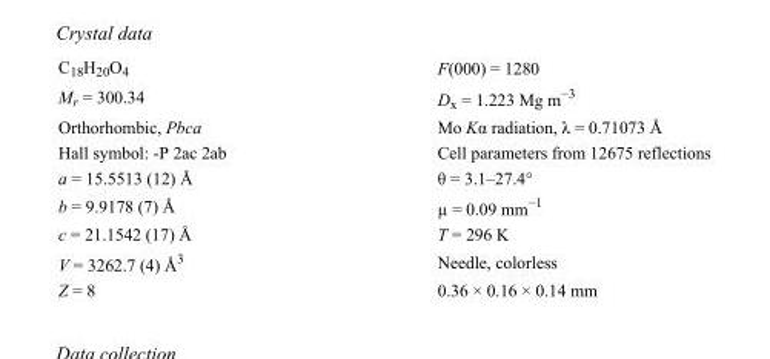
<table><tbody><tr><td>C<sub>18</sub>H<sub>20</sub>O<sub>4</sub></td><td>F(000) = 1280</td></tr><tr><td>M<sub>r</sub> = 300.34</td><td>D<sub>x</sub> = 1.223 Mg m<sup>−3</sup></td></tr><tr><td>Orthorhombic, Pbca</td><td>Mo Kα radiation, λ = 0.71073 Å</td></tr><tr><td>Hall symbol: -P 2ac 2ab</td><td>Cell parameters from 12675 reflections</td></tr><tr><td>a = 15.5513 (12) Å</td><td>θ = 3.1–27.4°</td></tr><tr><td>b = 9.9178 (7) Å</td><td>µ = 0.09 mm<sup>−1</sup></td></tr><tr><td>c = 21.1542 (17) Å</td><td>T = 296 K</td></tr><tr><td>V = 3262.7 (4) Å<sup>3</sup></td><td>Needle, colorless</td></tr><tr><td>Z = 8</td><td>0.36 × 0.16 × 0.14 mm</td></tr></tbody></table>